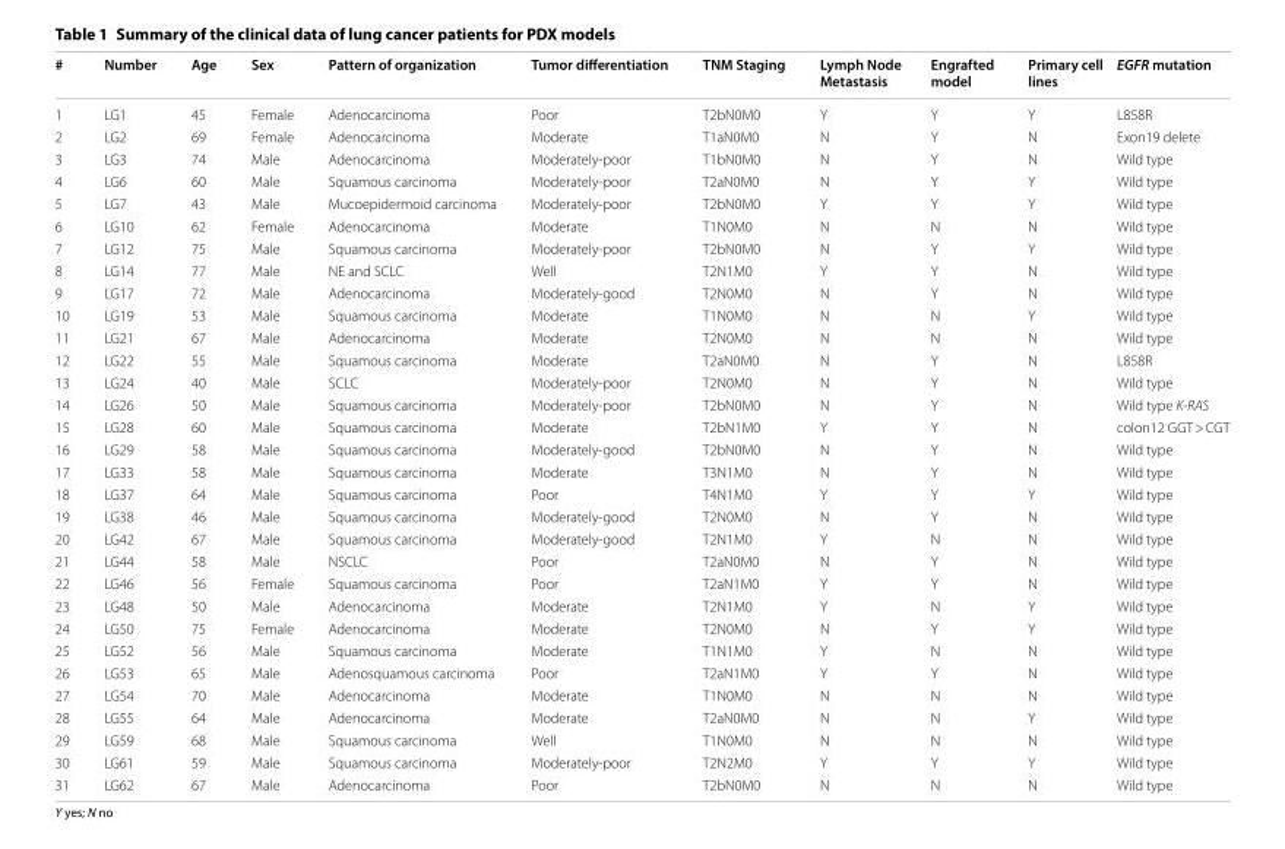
<table><thead><tr><td>#</td><td>Number</td><td>Age</td><td>Sex</td><td>Pattern of organization</td><td>Tumor differentiation</td><td>TNM Staging</td><td>Lymph Node Metastasis</td><td>Engrafted model</td><td>Primary cell lines</td><td>EGFR mutation</td></tr></thead><tbody><tr><td>1</td><td>LG1</td><td>45</td><td>Female</td><td>Adenocarcinoma</td><td>Poor</td><td>T2bN0M0</td><td>Y</td><td>Y</td><td>Y</td><td>L858R</td></tr><tr><td>2</td><td>LG2</td><td>69</td><td>Female</td><td>Adenocarcinoma</td><td>Moderate</td><td>T1aN0M0</td><td>N</td><td>Y</td><td>N</td><td>Exon19 delete</td></tr><tr><td>3</td><td>LG3</td><td>74</td><td>Male</td><td>Adenocarcinoma</td><td>Moderately-poor</td><td>T1bN0M0</td><td>N</td><td>Y</td><td>N</td><td>Wild type</td></tr><tr><td>4</td><td>LG6</td><td>60</td><td>Male</td><td>Squamous carcinoma</td><td>Moderately-poor</td><td>T2aN0M0</td><td>N</td><td>Y</td><td>Y</td><td>Wild type</td></tr><tr><td>5</td><td>LG7</td><td>43</td><td>Male</td><td>Mucoepidermoid carcinoma</td><td>Moderately-poor</td><td>T2bN0M0</td><td>Y</td><td>Y</td><td>Y</td><td>Wild type</td></tr><tr><td>6</td><td>LG10</td><td>62</td><td>Female</td><td>Adenocarcinoma</td><td>Moderate</td><td>T1N0M0</td><td>N</td><td>N</td><td>N</td><td>Wild type</td></tr><tr><td>7</td><td>LG12</td><td>75</td><td>Male</td><td>Squamous carcinoma</td><td>Moderately-poor</td><td>T2bN0M0</td><td>N</td><td>Y</td><td>Y</td><td>Wild type</td></tr><tr><td>8</td><td>LG14</td><td>77</td><td>Male</td><td>NE and SCLC</td><td>Well</td><td>T2N1M0</td><td>Y</td><td>Y</td><td>N</td><td>Wild type</td></tr><tr><td>9</td><td>LG17</td><td>72</td><td>Male</td><td>Adenocarcinoma</td><td>Moderately-good</td><td>T2N0M0</td><td>N</td><td>Y</td><td>N</td><td>Wild type</td></tr><tr><td>10</td><td>LG19</td><td>53</td><td>Male</td><td>Squamous carcinoma</td><td>Moderate</td><td>T1N0M0</td><td>N</td><td>N</td><td>Y</td><td>Wild type</td></tr><tr><td>11</td><td>LG21</td><td>67</td><td>Male</td><td>Adenocarcinoma</td><td>Moderate</td><td>T2N0M0</td><td>N</td><td>N</td><td>N</td><td>Wild type</td></tr><tr><td>12</td><td>LG22</td><td>55</td><td>Male</td><td>Squamous carcinoma</td><td>Moderate</td><td>T2aN0M0</td><td>N</td><td>Y</td><td>N</td><td>L858R</td></tr><tr><td>13</td><td>LG24</td><td>40</td><td>Male</td><td>SCLC</td><td>Moderately-poor</td><td>T2N0M0</td><td>N</td><td>Y</td><td>N</td><td>Wild type</td></tr><tr><td>14</td><td>LG26</td><td>50</td><td>Male</td><td>Squamous carcinoma</td><td>Moderately-poor</td><td>T2bN0M0</td><td>N</td><td>Y</td><td>N</td><td>Wild type K-RAS</td></tr><tr><td>15</td><td>LG28</td><td>60</td><td>Male</td><td>Squamous carcinoma</td><td>Moderate</td><td>T2bN1M0</td><td>Y</td><td>Y</td><td>N</td><td>colon12 GGT &gt; CGT</td></tr><tr><td>16</td><td>LG29</td><td>58</td><td>Male</td><td>Squamous carcinoma</td><td>Moderately-good</td><td>T2bN0M0</td><td>N</td><td>Y</td><td>N</td><td>Wild type</td></tr><tr><td>17</td><td>LG33</td><td>58</td><td>Male</td><td>Squamous carcinoma</td><td>Moderate</td><td>T3N1M0</td><td>N</td><td>Y</td><td>N</td><td>Wild type</td></tr><tr><td>18</td><td>LG37</td><td>64</td><td>Male</td><td>Squamous carcinoma</td><td>Poor</td><td>T4N1M0</td><td>Y</td><td>Y</td><td>Y</td><td>Wild type</td></tr><tr><td>19</td><td>LG38</td><td>46</td><td>Male</td><td>Squamous carcinoma</td><td>Moderately-good</td><td>T2N0M0</td><td>N</td><td>Y</td><td>N</td><td>Wild type</td></tr><tr><td>20</td><td>LG42</td><td>67</td><td>Male</td><td>Squamous carcinoma</td><td>Moderately-good</td><td>T2N1M0</td><td>Y</td><td>N</td><td>N</td><td>Wild type</td></tr><tr><td>21</td><td>LG44</td><td>58</td><td>Male</td><td>NSCLC</td><td>Poor</td><td>T2aN0M0</td><td>N</td><td>Y</td><td>N</td><td>Wild type</td></tr><tr><td>22</td><td>LG46</td><td>56</td><td>Female</td><td>Squamous carcinoma</td><td>Poor</td><td>T2aN1M0</td><td>Y</td><td>Y</td><td>N</td><td>Wild type</td></tr><tr><td>23</td><td>LG48</td><td>50</td><td>Male</td><td>Adenocarcinoma</td><td>Moderate</td><td>T2N1M0</td><td>Y</td><td>N</td><td>Y</td><td>Wild type</td></tr><tr><td>24</td><td>LG50</td><td>75</td><td>Female</td><td>Adenocarcinoma</td><td>Moderate</td><td>T2N0M0</td><td>N</td><td>Y</td><td>Y</td><td>Wild type</td></tr><tr><td>25</td><td>LG52</td><td>56</td><td>Male</td><td>Squamous carcinoma</td><td>Moderate</td><td>T1N1M0</td><td>Y</td><td>N</td><td>N</td><td>Wild type</td></tr><tr><td>26</td><td>LG53</td><td>65</td><td>Male</td><td>Adenosquamous carcinoma</td><td>Poor</td><td>T2aN1M0</td><td>Y</td><td>Y</td><td>N</td><td>Wild type</td></tr><tr><td>27</td><td>LG54</td><td>70</td><td>Male</td><td>Adenocarcinoma</td><td>Moderate</td><td>T1N0M0</td><td>N</td><td>N</td><td>N</td><td>Wild type</td></tr><tr><td>28</td><td>LG55</td><td>64</td><td>Male</td><td>Adenocarcinoma</td><td>Moderate</td><td>T2aN0M0</td><td>N</td><td>N</td><td>Y</td><td>Wild type</td></tr><tr><td>29</td><td>LG59</td><td>68</td><td>Male</td><td>Squamous carcinoma</td><td>Well</td><td>T1N0M0</td><td>N</td><td>N</td><td>N</td><td>Wild type</td></tr><tr><td>30</td><td>LG61</td><td>59</td><td>Male</td><td>Squamous carcinoma</td><td>Moderately-poor</td><td>T2N2M0</td><td>Y</td><td>Y</td><td>Y</td><td>Wild type</td></tr><tr><td>31</td><td>LG62</td><td>67</td><td>Male</td><td>Adenocarcinoma</td><td>Poor</td><td>T2bN0M0</td><td>N</td><td>N</td><td>N</td><td>Wild type</td></tr></tbody></table>